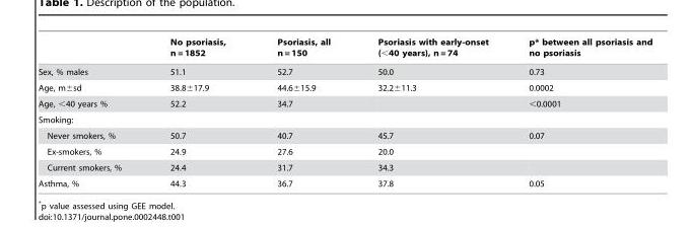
<table><thead><tr><td></td><td>No psoriasis, n = 1852</td><td>Psoriasis, all n = 150</td><td>Psoriasis with early-onset (&lt;40 years), n = 74</td><td>p* between all psoriasis and no psoriasis</td></tr></thead><tbody><tr><td>Sex, % males</td><td>51.1</td><td>52.7</td><td>50.0</td><td>0.73</td></tr><tr><td>Age, m±sd</td><td>38.8±17.9</td><td>44.6±15.9</td><td>32.2±11.3</td><td>0.0002</td></tr><tr><td>Age, &lt;40 years %</td><td>52.2</td><td>34.7</td><td></td><td>&lt;0.0001</td></tr><tr><td colspan="5">Smoking:</td></tr><tr><td>Never smokers, %</td><td>50.7</td><td>40.7</td><td>45.7</td><td>0.07</td></tr><tr><td>Ex-smokers, %</td><td>24.9</td><td>27.6</td><td>20.0</td><td></td></tr><tr><td>Current smokers, %</td><td>24.4</td><td>31.7</td><td>34.3</td><td></td></tr><tr><td>Asthma, %</td><td>44.3</td><td>36.7</td><td>37.8</td><td>0.05</td></tr></tbody></table>